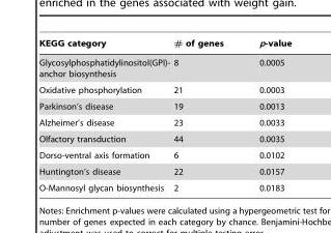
<table><thead><tr><td>KEGG category</td><td># of genes</td><td>p-value</td></tr></thead><tbody><tr><td>Glycosylphosphatidylinositol(GPI)- anchor biosynthesis</td><td>8</td><td>0.0005</td></tr><tr><td>Oxidative phosphorylation</td><td>21</td><td>0.0003</td></tr><tr><td>Parkinson’s disease</td><td>19</td><td>0.0013</td></tr><tr><td>Alzheimer’s disease</td><td>23</td><td>0.0033</td></tr><tr><td>Olfactory transduction</td><td>44</td><td>0.0035</td></tr><tr><td>Dorso-ventral axis formation</td><td>6</td><td>0.0102</td></tr><tr><td>Huntington’s disease</td><td>22</td><td>0.0157</td></tr><tr><td>O-Mannosyl glycan biosynthesis</td><td>2</td><td>0.0183</td></tr></tbody></table>